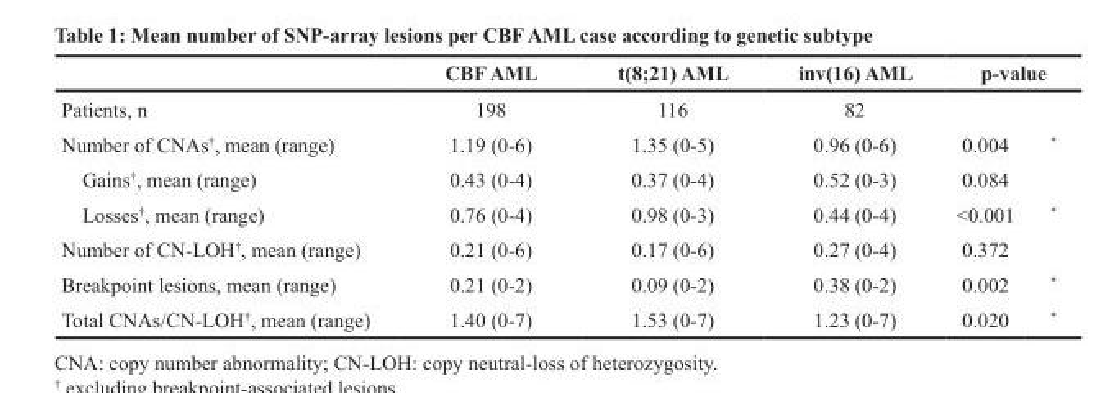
<table><thead><tr><td rowspan="2">Patients, n</td><td rowspan="2">CBF AML 198</td><td rowspan="2">t(8;21) AML 116</td><td rowspan="2">inv(16) AML 82</td><td colspan="2">p-value</td></tr><tr><td></td><td></td></tr></thead><tbody><tr><td>Number of CNAs<sup>†</sup>, mean (range)</td><td>1.19 (0-6)</td><td>1.35 (0-5)</td><td>0.96 (0-6)</td><td>0.004</td><td>*</td></tr><tr><td>Gains<sup>†</sup>, mean (range)</td><td>0.43 (0-4)</td><td>0.37 (0-4)</td><td>0.52 (0-3)</td><td>0.084</td><td></td></tr><tr><td>Losses<sup>†</sup>, mean (range)</td><td>0.76 (0-4)</td><td>0.98 (0-3)</td><td>0.44 (0-4)</td><td>&lt;0.001</td><td>*</td></tr><tr><td>Number of CN-LOH<sup>†</sup>, mean (range)</td><td>0.21 (0-6)</td><td>0.17 (0-6)</td><td>0.27 (0-4)</td><td>0.372</td><td></td></tr><tr><td>Breakpoint lesions, mean (range)</td><td>0.21 (0-2)</td><td>0.09 (0-2)</td><td>0.38 (0-2)</td><td>0.002</td><td>*</td></tr><tr><td>Total CNAs/CN-LOH<sup>†</sup>, mean (range)</td><td>1.40 (0-7)</td><td>1.53 (0-7)</td><td>1.23 (0-7)</td><td>0.020</td><td>*</td></tr></tbody></table>